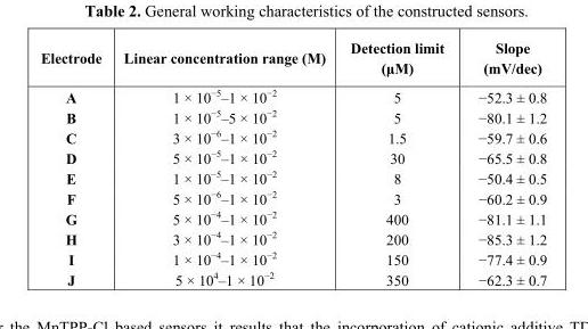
<table><thead><tr><td>Electrode</td><td>Linear concentration range (M)</td><td>Detection limit (μM)</td><td>Slope (mV/dec)</td></tr></thead><tbody><tr><td>A</td><td>1 × 10<sup>−5</sup>–1 × 10<sup>−2</sup></td><td>5</td><td>−52.3 ± 0.8</td></tr><tr><td>B</td><td>1 × 10<sup>−5</sup>–5 × 10<sup>−2</sup></td><td>5</td><td>−80.1 ± 1.2</td></tr><tr><td>C</td><td>3 × 10<sup>−6</sup>–1 × 10<sup>−2</sup></td><td>1.5</td><td>−59.7 ± 0.6</td></tr><tr><td>D</td><td>5 × 10<sup>−5</sup>–1 × 10<sup>−2</sup></td><td>30</td><td>−65.5 ± 0.8</td></tr><tr><td>E</td><td>1 × 10<sup>−5</sup>–1 × 10<sup>−2</sup></td><td>8</td><td>−50.4 ± 0.5</td></tr><tr><td>F</td><td>5 × 10<sup>−6</sup>–1 × 10<sup>−2</sup></td><td>3</td><td>−60.2 ± 0.9</td></tr><tr><td>G</td><td>5 × 10<sup>−4</sup>–1 × 10<sup>−2</sup></td><td>400</td><td>−81.1 ± 1.1</td></tr><tr><td>H</td><td>3 × 10<sup>−4</sup>–1 × 10<sup>−2</sup></td><td>200</td><td>−85.3 ± 1.2</td></tr><tr><td>I</td><td>1 × 10<sup>−4</sup>–1 × 10<sup>−2</sup></td><td>150</td><td>−77.4 ± 0.9</td></tr><tr><td>J</td><td>5 × 10<sup>4</sup>–1 × 10<sup>−2</sup></td><td>350</td><td>−62.3 ± 0.7</td></tr></tbody></table>